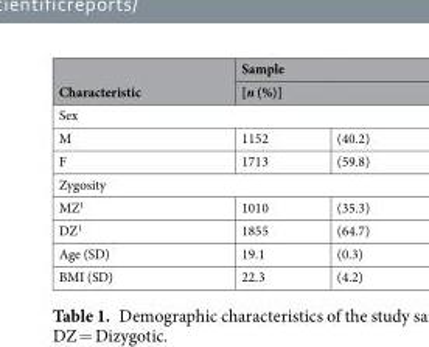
<table><thead><tr><td rowspan="2">Characteristic</td><td rowspan="2" colspan="2">Sample [n (%)]</td></tr><tr></tr><tr><td colspan="3">Sex</td></tr><tr><td>M</td><td>1152</td><td>(40.2)</td></tr></thead><tbody><tr><td>F</td><td>1713</td><td>(59.8)</td></tr><tr><td colspan="3">Zygosity</td></tr><tr><td>MZ<sup>1</sup></td><td>1010</td><td>(35.3)</td></tr><tr><td>DZ<sup>1</sup></td><td>1855</td><td>(64.7)</td></tr><tr><td>Age (SD)</td><td>19.1</td><td>(0.3)</td></tr><tr><td>BMI (SD)</td><td>22.3</td><td>(4.2)</td></tr></tbody></table>